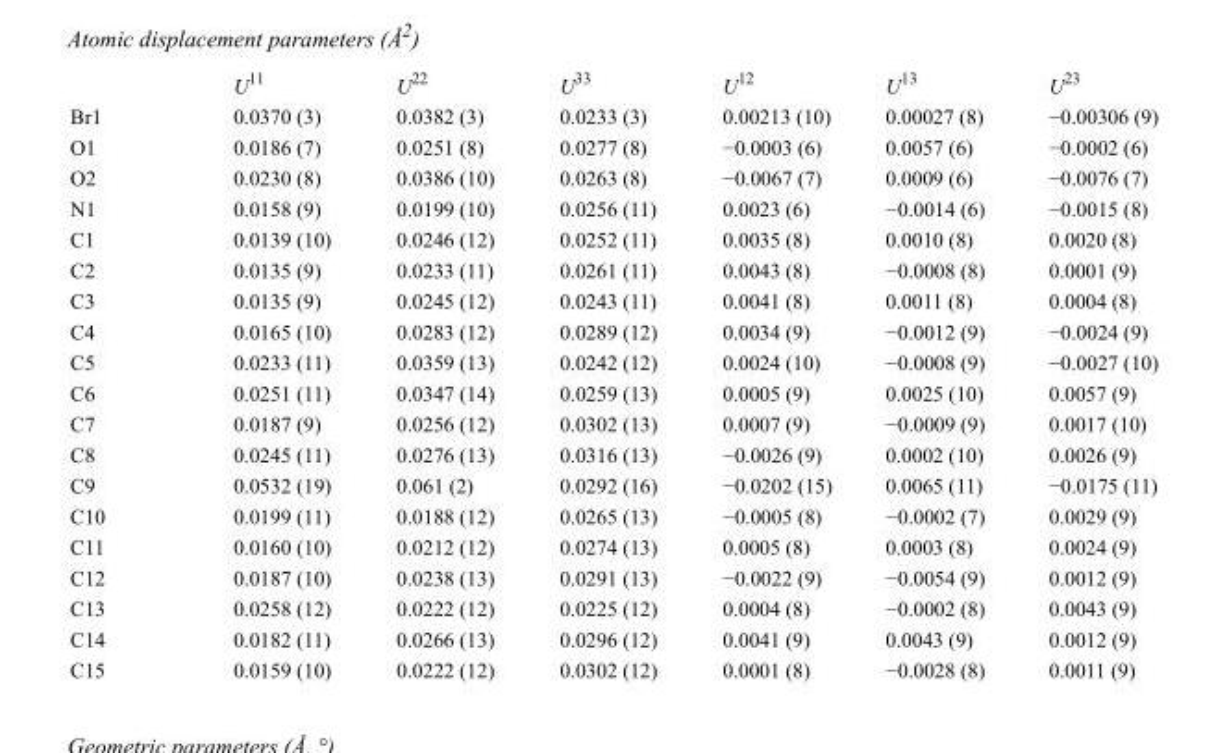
<table><thead><tr><td></td><td>U<sup>11</sup></td><td>U<sup>22</sup></td><td>U<sup>33</sup></td><td>U<sup>12</sup></td><td>U<sup>13</sup></td><td>U<sup>23</sup></td></tr></thead><tbody><tr><td>Br1</td><td>0.0370 (3)</td><td>0.0382 (3)</td><td>0.0233 (3)</td><td>0.00213 (10)</td><td>0.00027 (8)</td><td>−0.00306 (9)</td></tr><tr><td>O1</td><td>0.0186 (7)</td><td>0.0251 (8)</td><td>0.0277 (8)</td><td>−0.0003 (6)</td><td>0.0057 (6)</td><td>−0.0002 (6)</td></tr><tr><td>O2</td><td>0.0230 (8)</td><td>0.0386 (10)</td><td>0.0263 (8)</td><td>−0.0067 (7)</td><td>0.0009 (6)</td><td>−0.0076 (7)</td></tr><tr><td>N1</td><td>0.0158 (9)</td><td>0.0199 (10)</td><td>0.0256 (11)</td><td>0.0023 (6)</td><td>−0.0014 (6)</td><td>−0.0015 (8)</td></tr><tr><td>C1</td><td>0.0139 (10)</td><td>0.0246 (12)</td><td>0.0252 (11)</td><td>0.0035 (8)</td><td>0.0010 (8)</td><td>0.0020 (8)</td></tr><tr><td>C2</td><td>0.0135 (9)</td><td>0.0233 (11)</td><td>0.0261 (11)</td><td>0.0043 (8)</td><td>−0.0008 (8)</td><td>0.0001 (9)</td></tr><tr><td>C3</td><td>0.0135 (9)</td><td>0.0245 (12)</td><td>0.0243 (11)</td><td>0.0041 (8)</td><td>0.0011 (8)</td><td>0.0004 (8)</td></tr><tr><td>C4</td><td>0.0165 (10)</td><td>0.0283 (12)</td><td>0.0289 (12)</td><td>0.0034 (9)</td><td>−0.0012 (9)</td><td>−0.0024 (9)</td></tr><tr><td>C5</td><td>0.0233 (11)</td><td>0.0359 (13)</td><td>0.0242 (12)</td><td>0.0024 (10)</td><td>−0.0008 (9)</td><td>−0.0027 (10)</td></tr><tr><td>C6</td><td>0.0251 (11)</td><td>0.0347 (14)</td><td>0.0259 (13)</td><td>0.0005 (9)</td><td>0.0025 (10)</td><td>0.0057 (9)</td></tr><tr><td>C7</td><td>0.0187 (9)</td><td>0.0256 (12)</td><td>0.0302 (13)</td><td>0.0007 (9)</td><td>−0.0009 (9)</td><td>0.0017 (10)</td></tr><tr><td>C8</td><td>0.0245 (11)</td><td>0.0276 (13)</td><td>0.0316 (13)</td><td>−0.0026 (9)</td><td>0.0002 (10)</td><td>0.0026 (9)</td></tr><tr><td>C9</td><td>0.0532 (19)</td><td>0.061 (2)</td><td>0.0292 (16)</td><td>−0.0202 (15)</td><td>0.0065 (11)</td><td>−0.0175 (11)</td></tr><tr><td>C10</td><td>0.0199 (11)</td><td>0.0188 (12)</td><td>0.0265 (13)</td><td>−0.0005 (8)</td><td>−0.0002 (7)</td><td>0.0029 (9)</td></tr><tr><td>C11</td><td>0.0160 (10)</td><td>0.0212 (12)</td><td>0.0274 (13)</td><td>0.0005 (8)</td><td>0.0003 (8)</td><td>0.0024 (9)</td></tr><tr><td>C12</td><td>0.0187 (10)</td><td>0.0238 (13)</td><td>0.0291 (13)</td><td>−0.0022 (9)</td><td>−0.0054 (9)</td><td>0.0012 (9)</td></tr><tr><td>C13</td><td>0.0258 (12)</td><td>0.0222 (12)</td><td>0.0225 (12)</td><td>0.0004 (8)</td><td>−0.0002 (8)</td><td>0.0043 (9)</td></tr><tr><td>C14</td><td>0.0182 (11)</td><td>0.0266 (13)</td><td>0.0296 (12)</td><td>0.0041 (9)</td><td>0.0043 (9)</td><td>0.0012 (9)</td></tr><tr><td>C15</td><td>0.0159 (10)</td><td>0.0222 (12)</td><td>0.0302 (12)</td><td>0.0001 (8)</td><td>−0.0028 (8)</td><td>0.0011 (9)</td></tr></tbody></table>